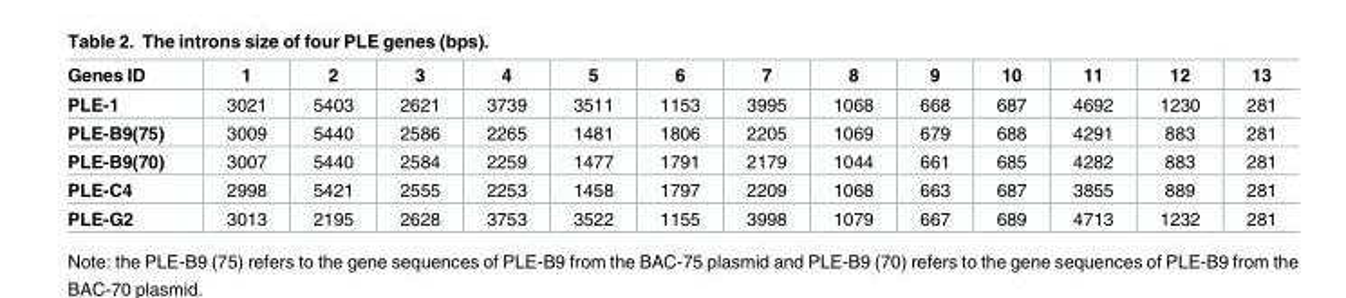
<table><thead><tr><td>Genes ID</td><td>1</td><td>2</td><td>3</td><td>4</td><td>5</td><td>6</td><td>7</td><td>8</td><td>9</td><td>10</td><td>11</td><td>12</td><td>13</td></tr></thead><tbody><tr><td>PLE-1</td><td>3021</td><td>5403</td><td>2621</td><td>3739</td><td>3511</td><td>1153</td><td>3995</td><td>1068</td><td>668</td><td>687</td><td>4692</td><td>1230</td><td>281</td></tr><tr><td>PLE-B9(75)</td><td>3009</td><td>5440</td><td>2586</td><td>2265</td><td>1481</td><td>1806</td><td>2205</td><td>1069</td><td>679</td><td>688</td><td>4291</td><td>883</td><td>281</td></tr><tr><td>PLE-B9(70)</td><td>3007</td><td>5440</td><td>2584</td><td>2259</td><td>1477</td><td>1791</td><td>2179</td><td>1044</td><td>661</td><td>685</td><td>4282</td><td>883</td><td>281</td></tr><tr><td>PLE-C4</td><td>2998</td><td>5421</td><td>2555</td><td>2253</td><td>1458</td><td>1797</td><td>2209</td><td>1068</td><td>663</td><td>687</td><td>3855</td><td>889</td><td>281</td></tr><tr><td>PLE-G2</td><td>3013</td><td>2195</td><td>2628</td><td>3753</td><td>3522</td><td>1155</td><td>3998</td><td>1079</td><td>667</td><td>689</td><td>4713</td><td>1232</td><td>281</td></tr></tbody></table>